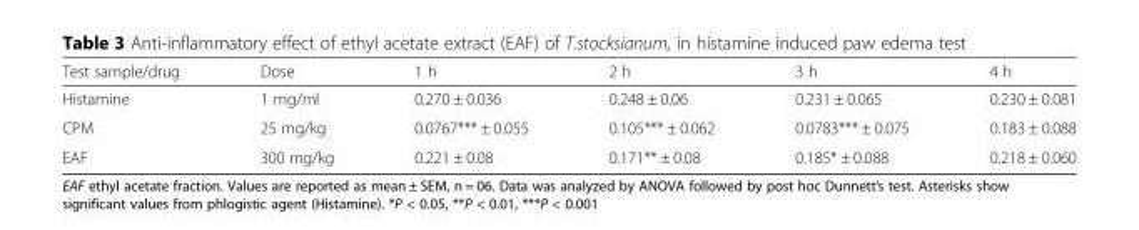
<table><thead><tr><td>Test sample/drug</td><td>Dose</td><td>1 h</td><td>2 h</td><td>3 h</td><td>4 h</td></tr></thead><tbody><tr><td>Histamine</td><td>1 mg/ml</td><td>0.270 ± 0.036</td><td>0.248 ± 0.06</td><td>0.231 ± 0.065</td><td>0.230 ± 0.081</td></tr><tr><td>CPM</td><td>25 mg/kg</td><td>0.0767*** ± 0.055</td><td>0.105*** ± 0.062</td><td>0.0783*** ± 0.075</td><td>0.183 ± 0.088</td></tr><tr><td>EAF</td><td>300 mg/kg</td><td>0.221 ± 0.08</td><td>0.171** ± 0.08</td><td>0.185* ± 0.088</td><td>0.218 ± 0.060</td></tr></tbody></table>